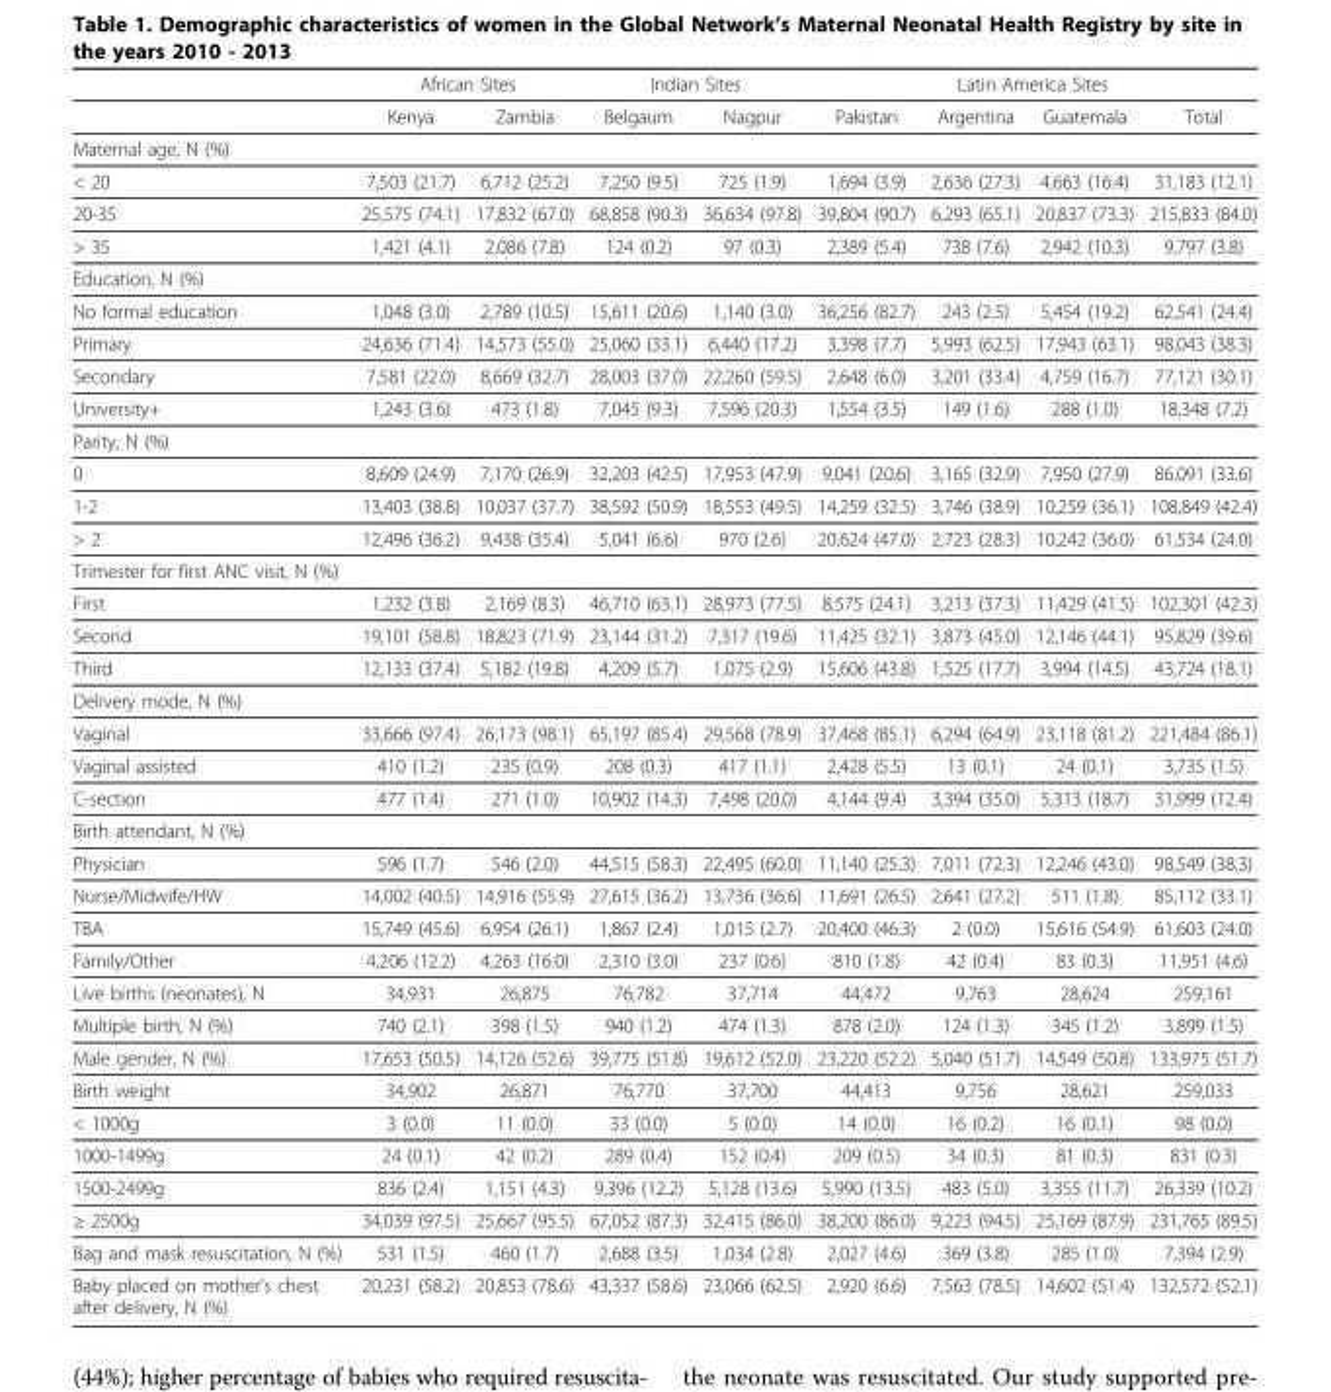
<table><thead><tr><td rowspan="2"></td><td colspan="2">African Sites</td><td colspan="2">Indian Sites</td><td rowspan="2">Pakistan</td><td colspan="2">Latin America Sites</td><td rowspan="2">Total</td></tr><tr><td>Kenya</td><td>Zambia</td><td>Belgaum</td><td>Nagpur</td><td>Argentina</td><td>Guatemala</td></tr></thead><tbody><tr><td colspan="9">Maternal age, N (%)</td></tr><tr><td>&lt; 20</td><td>7,503 (21.7)</td><td>6,712 (25.2)</td><td>7,250 (9.5)</td><td>725 (1.9)</td><td>1,694 (3.9)</td><td>2,636 (27.3)</td><td>4,663 (16.4)</td><td>31,183 (12.1)</td></tr><tr><td>20-35</td><td>25,575 (74.1)</td><td>17,832 (67.0)</td><td>68,858 (90.3)</td><td>36,634 (97.8)</td><td>39,804 (90.7)</td><td>6,293 (65.1)</td><td>20,837 (73.3)</td><td>215,833 (84.0)</td></tr><tr><td>&gt; 35</td><td>1,421 (4.1)</td><td>2,086 (7.8)</td><td>124 (0.2)</td><td>97 (0.3)</td><td>2,389 (5.4)</td><td>738 (7.6)</td><td>2,942 (10.3)</td><td>9,797 (3.8)</td></tr><tr><td colspan="9">Education, N (%)</td></tr><tr><td>No formal education</td><td>1,048 (3.0)</td><td>2,789 (10.5)</td><td>15,611 (20.6)</td><td>1,140 (3.0)</td><td>36,256 (82.7)</td><td>243 (2.5)</td><td>5,454 (19.2)</td><td>62,541 (24.4)</td></tr><tr><td>Primary</td><td>24,636 (71.4)</td><td>14,573 (55.0)</td><td>25,060 (33.1)</td><td>6,440 (17.2)</td><td>3,398 (7.7)</td><td>5,993 (62.5)</td><td>17,943 (63.1)</td><td>98,043 (38.3)</td></tr><tr><td>Secondary</td><td>7,581 (22.0)</td><td>8,669 (32.7)</td><td>28,003 (37.0)</td><td>22,260 (59.5)</td><td>2,648 (6.0)</td><td>3,201 (33.4)</td><td>4,759 (16.7)</td><td>77,121 (30.1)</td></tr><tr><td>University+</td><td>1,243 (3.6)</td><td>473 (1.8)</td><td>7,045 (9.3)</td><td>7,596 (20.3)</td><td>1,554 (3.5)</td><td>149 (1.6)</td><td>288 (1.0)</td><td>18,348 (7.2)</td></tr><tr><td colspan="9">Parity, N (%)</td></tr><tr><td>0</td><td>8,609 (24.9)</td><td>7,170 (26.9)</td><td>32,203 (42.5)</td><td>17,953 (47.9)</td><td>9,041 (20.6)</td><td>3,165 (32.9)</td><td>7,950 (27.9)</td><td>86,091 (33.6)</td></tr><tr><td>1-2</td><td>13,403 (38.8)</td><td>10,037 (37.7)</td><td>38,592 (50.9)</td><td>18,553 (49.5)</td><td>14,259 (32.5)</td><td>3,746 (38.9)</td><td>10,259 (36.1)</td><td>108,849 (42.4)</td></tr><tr><td>&gt; 2</td><td>12,496 (36.2)</td><td>9,438 (35.4)</td><td>5,041 (6.6)</td><td>970 (2.6)</td><td>20,624 (47.0)</td><td>2,723 (28.3)</td><td>10,242 (36.0)</td><td>61,534 (24.0)</td></tr><tr><td colspan="9">Trimester for first ANC visit, N (%)</td></tr><tr><td>First</td><td>1,232 (3.8)</td><td>2,169 (8.3)</td><td>46,710 (63.1)</td><td>28,973 (77.5)</td><td>8,575 (24.1)</td><td>3,213 (37.3)</td><td>11,429 (41.5)</td><td>102,301 (42.3)</td></tr><tr><td>Second</td><td>19,101 (58.8)</td><td>18,823 (71.9)</td><td>23,144 (31.2)</td><td>7,317 (19.6)</td><td>11,425 (32.1)</td><td>3,873 (45.0)</td><td>12,146 (44.1)</td><td>95,829 (39.6)</td></tr><tr><td>Third</td><td>12,133 (37.4)</td><td>5,182 (19.8)</td><td>4,209 (5.7)</td><td>1,075 (2.9)</td><td>15,606 (43.8)</td><td>1,525 (17.7)</td><td>3,994 (14.5)</td><td>43,724 (18.1)</td></tr><tr><td colspan="9">Delivery mode, N (%)</td></tr><tr><td>Vaginal</td><td>33,666 (97.4)</td><td>26,173 (98.1)</td><td>65,197 (85.4)</td><td>29,568 (78.9)</td><td>37,468 (85.1)</td><td>6,294 (64.9)</td><td>23,118 (81.2)</td><td>221,484 (86.1)</td></tr><tr><td>Vaginal assisted</td><td>410 (1.2)</td><td>235 (0.9)</td><td>208 (0.3)</td><td>417 (1.1)</td><td>2,428 (5.5)</td><td>13 (0.1)</td><td>24 (0.1)</td><td>3,735 (1.5)</td></tr><tr><td>C-section</td><td>477 (1.4)</td><td>271 (1.0)</td><td>10,902 (14.3)</td><td>7,498 (20.0)</td><td>4,144 (9.4)</td><td>3,394 (35.0)</td><td>5,313 (18.7)</td><td>31,999 (12.4)</td></tr><tr><td colspan="9">Birth attendant, N (%)</td></tr><tr><td>Physician</td><td>596 (1.7)</td><td>546 (2.0)</td><td>44,515 (58.3)</td><td>22,495 (60.0)</td><td>11,140 (25.3)</td><td>7,011 (72.3)</td><td>12,246 (43.0)</td><td>98,549 (38.3)</td></tr><tr><td>Nurse/Midwife/HW</td><td>14,002 (40.5)</td><td>14,916 (55.9)</td><td>27,615 (36.2)</td><td>13,736 (36.6)</td><td>11,691 (26.5)</td><td>2,641 (27.2)</td><td>511 (1.8)</td><td>85,112 (33.1)</td></tr><tr><td>TBA</td><td>15,749 (45.6)</td><td>6,954 (26.1)</td><td>1,867 (2.4)</td><td>1,015 (2.7)</td><td>20,400 (46.3)</td><td>2 (0.0)</td><td>15,616 (54.9)</td><td>61,603 (24.0)</td></tr><tr><td>Family/Other</td><td>4,206 (12.2)</td><td>4,263 (16.0)</td><td>2,310 (3.0)</td><td>237 (0.6)</td><td>810 (1.8)</td><td>42 (0.4)</td><td>83 (0.3)</td><td>11,951 (4.6)</td></tr><tr><td>Live births (neonates), N</td><td>34,931</td><td>26,875</td><td>76,782</td><td>37,714</td><td>44,472</td><td>9,763</td><td>28,624</td><td>259,161</td></tr><tr><td>Multiple birth, N (%)</td><td>740 (2.1)</td><td>398 (1.5)</td><td>940 (1.2)</td><td>474 (1.3)</td><td>878 (2.0)</td><td>124 (1.3)</td><td>345 (1.2)</td><td>3,899 (1.5)</td></tr><tr><td>Male gender, N (%)</td><td>17,653 (50.5)</td><td>14,126 (52.6)</td><td>39,775 (51.8)</td><td>19,612 (52.0)</td><td>23,220 (52.2)</td><td>5,040 (51.7)</td><td>14,549 (50.8)</td><td>133,975 (51.7)</td></tr><tr><td>Birth weight</td><td>34,902</td><td>26,871</td><td>76,770</td><td>37,700</td><td>44,413</td><td>9,756</td><td>28,621</td><td>259,033</td></tr><tr><td>&lt; 1000g</td><td>3 (0.0)</td><td>11 (0.0)</td><td>33 (0.0)</td><td>5 (0.0)</td><td>14 (0.0)</td><td>16 (0.2)</td><td>16 (0.1)</td><td>98 (0.0)</td></tr><tr><td>1000-1499g</td><td>24 (0.1)</td><td>42 (0.2)</td><td>289 (0.4)</td><td>152 (0.4)</td><td>209 (0.5)</td><td>34 (0.3)</td><td>81 (0.3)</td><td>831 (0.3)</td></tr><tr><td>1500-2499g</td><td>836 (2.4)</td><td>1,151 (4.3)</td><td>9,396 (12.2)</td><td>5,128 (13.6)</td><td>5,990 (13.5)</td><td>483 (5.0)</td><td>3,355 (11.7)</td><td>26,339 (10.2)</td></tr><tr><td>≥ 2500g</td><td>34,039 (97.5)</td><td>25,667 (95.5)</td><td>67,052 (87.3)</td><td>32,415 (86.0)</td><td>38,200 (86.0)</td><td>9,223 (94.5)</td><td>25,169 (87.9)</td><td>231,765 (89.5)</td></tr><tr><td>Bag and mask resuscitation, N (%)</td><td>531 (1.5)</td><td>460 (1.7)</td><td>2,688 (3.5)</td><td>1,034 (2.8)</td><td>2,027 (4.6)</td><td>369 (3.8)</td><td>285 (1.0)</td><td>7,394 (2.9)</td></tr><tr><td>Baby placed on mother’s chest after delivery, N (%)</td><td>20,231 (58.2)</td><td>20,853 (78.6)</td><td>43,337 (58.6)</td><td>23,066 (62.5)</td><td>2,920 (6.6)</td><td>7,563 (78.5)</td><td>14,602 (51.4)</td><td>132,572 (52.1)</td></tr></tbody></table>